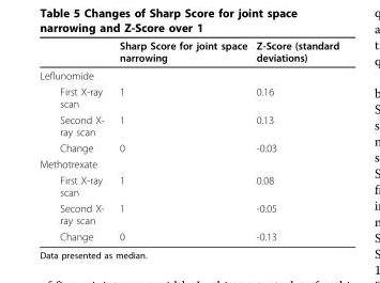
<table><thead><tr><td></td><td>Sharp Score for joint space narrowing</td><td>Z-Score (standard deviations)</td></tr></thead><tbody><tr><td colspan="3">Leflunomide</td></tr><tr><td>First X-ray scan</td><td>1</td><td>0.16</td></tr><tr><td>Second X- ray scan</td><td>1</td><td>0.13</td></tr><tr><td>Change</td><td>0</td><td>-0.03</td></tr><tr><td colspan="3">Methotrexate</td></tr><tr><td>First X-ray scan</td><td>1</td><td>0.08</td></tr><tr><td>Second X- ray scan</td><td>1</td><td>-0.05</td></tr><tr><td>Change</td><td>0</td><td>-0.13</td></tr></tbody></table>